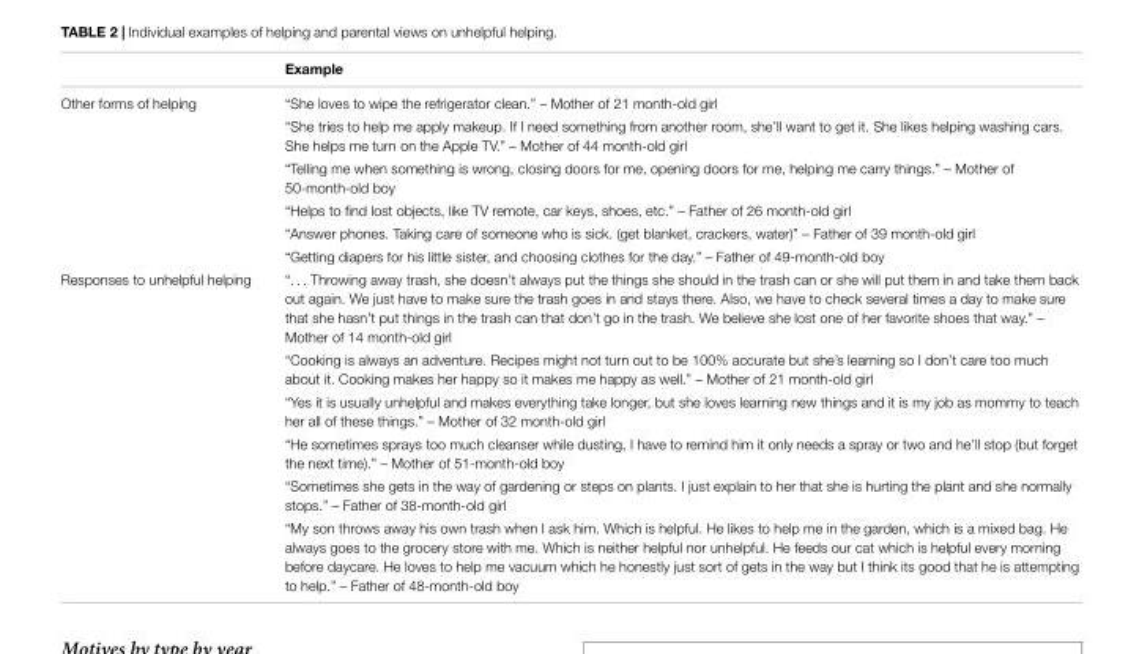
<table><thead><tr><td></td><td>Example</td></tr></thead><tbody><tr><td rowspan="6">Other forms of helping</td><td>“She loves to wipe the refrigerator clean.” – Mother of 21 month-old girl</td></tr><tr><td>“She tries to help me apply makeup. If I need something from another room, she’ll want to get it. She likes helping washing cars. She helps me turn on the Apple TV.” – Mother of 44 month-old girl</td></tr><tr><td>“Telling me when something is wrong, closing doors for me, opening doors for me, helping me carry things.” – Mother of 50-month-old boy</td></tr><tr><td>“Helps to find lost objects, like TV remote, car keys, shoes, etc.” – Father of 26 month-old girl</td></tr><tr><td>“Answer phones. Taking care of someone who is sick. (get blanket, crackers, water)” – Father of 39 month-old girl</td></tr><tr><td>“Getting diapers for his little sister, and choosing clothes for the day.” – Father of 49-month-old boy</td></tr><tr><td rowspan="6">Responses to unhelpful helping</td><td>“. . . Throwing away trash, she doesn’t always put the things she should in the trash can or she will put them in and take them back out again. We just have to make sure the trash goes in and stays there. Also, we have to check several times a day to make sure that she hasn’t put things in the trash can that don’t go in the trash. We believe she lost one of her favorite shoes that way.” – Mother of 14 month-old girl</td></tr><tr><td>“Cooking is always an adventure. Recipes might not turn out to be 100% accurate but she’s learning so I don’t care too much about it. Cooking makes her happy so it makes me happy as well.” – Mother of 21 month-old girl</td></tr><tr><td>“Yes it is usually unhelpful and makes everything take longer, but she loves learning new things and it is my job as mommy to teach her all of these things.” – Mother of 32 month-old girl</td></tr><tr><td>“He sometimes sprays too much cleanser while dusting, I have to remind him it only needs a spray or two and he’ll stop (but forget the next time).” – Mother of 51-month-old boy</td></tr><tr><td>“Sometimes she gets in the way of gardening or steps on plants. I just explain to her that she is hurting the plant and she normally stops.” – Father of 38-month-old girl</td></tr><tr><td>“My son throws away his own trash when I ask him. Which is helpful. He likes to help me in the garden, which is a mixed bag. He always goes to the grocery store with me. Which is neither helpful nor unhelpful. He feeds our cat which is helpful every morning before daycare. He loves to help me vacuum which he honestly just sort of gets in the way but I think its good that he is attempting to help.” – Father of 48-month-old boy</td></tr></tbody></table>